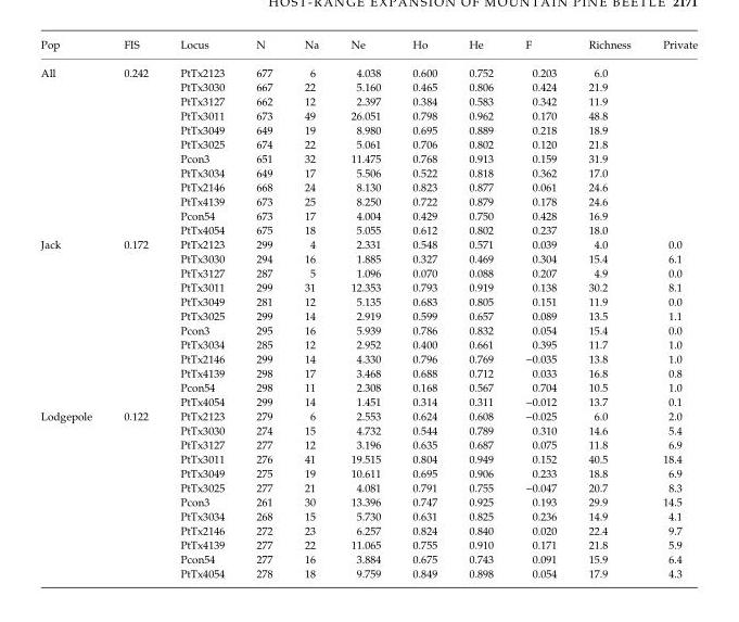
<table><thead><tr><td>Pop</td><td>FIS</td><td>Locus</td><td>N</td><td>Na</td><td>Ne</td><td>Ho</td><td>He</td><td>F</td><td>Richness</td><td>Private</td></tr></thead><tbody><tr><td rowspan="12">All</td><td>0.242</td><td>PtTx2123</td><td>677</td><td>6</td><td>4.038</td><td>0.600</td><td>0.752</td><td>0.203</td><td>6.0</td><td></td></tr><tr><td></td><td>PtTx3030</td><td>667</td><td>22</td><td>5.160</td><td>0.465</td><td>0.806</td><td>0.424</td><td>21.9</td><td></td></tr><tr><td></td><td>PtTx3127</td><td>662</td><td>12</td><td>2.397</td><td>0.384</td><td>0.583</td><td>0.342</td><td>11.9</td><td></td></tr><tr><td></td><td>PtTx3011</td><td>673</td><td>49</td><td>26.051</td><td>0.798</td><td>0.962</td><td>0.170</td><td>48.8</td><td></td></tr><tr><td></td><td>PtTx3049</td><td>649</td><td>19</td><td>8.980</td><td>0.695</td><td>0.889</td><td>0.218</td><td>18.9</td><td></td></tr><tr><td></td><td>PtTx3025</td><td>674</td><td>22</td><td>5.061</td><td>0.706</td><td>0.802</td><td>0.120</td><td>21.8</td><td></td></tr><tr><td></td><td>Pcon3</td><td>651</td><td>32</td><td>11.475</td><td>0.768</td><td>0.913</td><td>0.159</td><td>31.9</td><td></td></tr><tr><td></td><td>PtTx3034</td><td>649</td><td>17</td><td>5.506</td><td>0.522</td><td>0.818</td><td>0.362</td><td>17.0</td><td></td></tr><tr><td></td><td>PtTx2146</td><td>668</td><td>24</td><td>8.130</td><td>0.823</td><td>0.877</td><td>0.061</td><td>24.6</td><td></td></tr><tr><td></td><td>PtTx4139</td><td>673</td><td>25</td><td>8.250</td><td>0.722</td><td>0.879</td><td>0.178</td><td>24.6</td><td></td></tr><tr><td></td><td>Pcon54</td><td>673</td><td>17</td><td>4.004</td><td>0.429</td><td>0.750</td><td>0.428</td><td>16.9</td><td></td></tr><tr><td></td><td>PtTx4054</td><td>675</td><td>18</td><td>5.055</td><td>0.612</td><td>0.802</td><td>0.237</td><td>18.0</td><td></td></tr><tr><td rowspan="12">Jack</td><td>0.172</td><td>PtTx2123</td><td>299</td><td>4</td><td>2.331</td><td>0.548</td><td>0.571</td><td>0.039</td><td>4.0</td><td>0.0</td></tr><tr><td></td><td>PtTx3030</td><td>294</td><td>16</td><td>1.885</td><td>0.327</td><td>0.469</td><td>0.304</td><td>15.4</td><td>6.1</td></tr><tr><td></td><td>PtTx3127</td><td>287</td><td>5</td><td>1.096</td><td>0.070</td><td>0.088</td><td>0.207</td><td>4.9</td><td>0.0</td></tr><tr><td></td><td>PtTx3011</td><td>299</td><td>31</td><td>12.353</td><td>0.793</td><td>0.919</td><td>0.138</td><td>30.2</td><td>8.1</td></tr><tr><td></td><td>PtTx3049</td><td>281</td><td>12</td><td>5.135</td><td>0.683</td><td>0.805</td><td>0.151</td><td>11.9</td><td>0.0</td></tr><tr><td></td><td>PtTx3025</td><td>299</td><td>14</td><td>2.919</td><td>0.599</td><td>0.657</td><td>0.089</td><td>13.5</td><td>1.1</td></tr><tr><td></td><td>Pcon3</td><td>295</td><td>16</td><td>5.939</td><td>0.786</td><td>0.832</td><td>0.054</td><td>15.4</td><td>0.0</td></tr><tr><td></td><td>PtTx3034</td><td>285</td><td>12</td><td>2.952</td><td>0.400</td><td>0.661</td><td>0.395</td><td>11.7</td><td>1.0</td></tr><tr><td></td><td>PtTx2146</td><td>299</td><td>14</td><td>4.330</td><td>0.796</td><td>0.769</td><td>−0.035</td><td>13.8</td><td>1.0</td></tr><tr><td></td><td>PtTx4139</td><td>298</td><td>17</td><td>3.468</td><td>0.688</td><td>0.712</td><td>0.033</td><td>16.8</td><td>0.8</td></tr><tr><td></td><td>Pcon54</td><td>298</td><td>11</td><td>2.308</td><td>0.168</td><td>0.567</td><td>0.704</td><td>10.5</td><td>1.0</td></tr><tr><td></td><td>PtTx4054</td><td>299</td><td>14</td><td>1.451</td><td>0.314</td><td>0.311</td><td>−0.012</td><td>13.7</td><td>0.1</td></tr><tr><td rowspan="12">Lodgepole</td><td>0.122</td><td>PtTx2123</td><td>279</td><td>6</td><td>2.553</td><td>0.624</td><td>0.608</td><td>−0.025</td><td>6.0</td><td>2.0</td></tr><tr><td></td><td>PtTx3030</td><td>274</td><td>15</td><td>4.732</td><td>0.544</td><td>0.789</td><td>0.310</td><td>14.6</td><td>5.4</td></tr><tr><td></td><td>PtTx3127</td><td>277</td><td>12</td><td>3.196</td><td>0.635</td><td>0.687</td><td>0.075</td><td>11.8</td><td>6.9</td></tr><tr><td></td><td>PtTx3011</td><td>276</td><td>41</td><td>19.515</td><td>0.804</td><td>0.949</td><td>0.152</td><td>40.5</td><td>18.4</td></tr><tr><td></td><td>PtTx3049</td><td>275</td><td>19</td><td>10.611</td><td>0.695</td><td>0.906</td><td>0.233</td><td>18.8</td><td>6.9</td></tr><tr><td></td><td>PtTx3025</td><td>277</td><td>21</td><td>4.081</td><td>0.791</td><td>0.755</td><td>−0.047</td><td>20.7</td><td>8.3</td></tr><tr><td></td><td>Pcon3</td><td>261</td><td>30</td><td>13.396</td><td>0.747</td><td>0.925</td><td>0.193</td><td>29.9</td><td>14.5</td></tr><tr><td></td><td>PtTx3034</td><td>268</td><td>15</td><td>5.730</td><td>0.631</td><td>0.825</td><td>0.236</td><td>14.9</td><td>4.1</td></tr><tr><td></td><td>PtTx2146</td><td>272</td><td>23</td><td>6.257</td><td>0.824</td><td>0.840</td><td>0.020</td><td>22.4</td><td>9.7</td></tr><tr><td></td><td>PtTx4139</td><td>277</td><td>22</td><td>11.065</td><td>0.755</td><td>0.910</td><td>0.171</td><td>21.8</td><td>5.9</td></tr><tr><td></td><td>Pcon54</td><td>277</td><td>16</td><td>3.884</td><td>0.675</td><td>0.743</td><td>0.091</td><td>15.9</td><td>6.4</td></tr><tr><td></td><td>PtTx4054</td><td>278</td><td>18</td><td>9.759</td><td>0.849</td><td>0.898</td><td>0.054</td><td>17.9</td><td>4.3</td></tr></tbody></table>